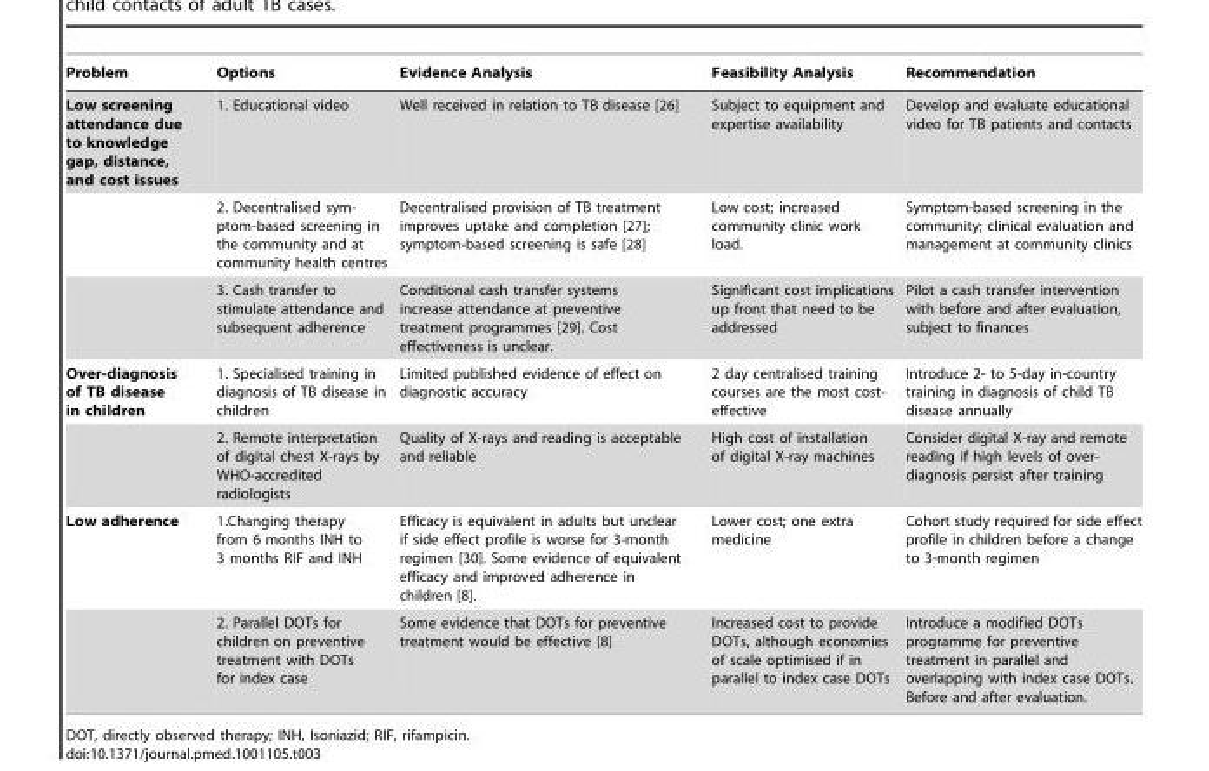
<table><thead><tr><td>Problem</td><td>Options</td><td>Evidence Analysis</td><td>Feasibility Analysis</td><td>Recommendation</td></tr></thead><tbody><tr><td rowspan="3">Low screening attendance due to knowledge gap, distance, and cost issues</td><td>1. Educational video</td><td>Well received in relation to TB disease [26]</td><td>Subject to equipment and expertise availability</td><td>Develop and evaluate educational video for TB patients and contacts</td></tr><tr><td>2. Decentralised sym- ptom-based screening in the community and at community health centres</td><td>Decentralised provision of TB treatment improves uptake and completion [27]; symptom-based screening is safe [28]</td><td>Low cost; increased community clinic work load.</td><td>Symptom-based screening in the community; clinical evaluation and management at community clinics</td></tr><tr><td>3. Cash transfer to stimulate attendance and subsequent adherence</td><td>Conditional cash transfer systems increase attendance at preventive treatment programmes [29]. Cost effectiveness is unclear.</td><td>Significant cost implications up front that need to be addressed</td><td>Pilot a cash transfer intervention with before and after evaluation, subject to finances</td></tr><tr><td rowspan="2">Over-diagnosis of TB disease in children</td><td>1. Specialised training in diagnosis of TB disease in children</td><td>Limited published evidence of effect on diagnostic accuracy</td><td>2 day centralised training courses are the most cost- effective</td><td>Introduce 2- to 5-day in-country training in diagnosis of child TB disease annually</td></tr><tr><td>2. Remote interpretation of digital chest X-rays by WHO-accredited radiologists</td><td>Quality of X-rays and reading is acceptable and reliable</td><td>High cost of installation of digital X-ray machines</td><td>Consider digital X-ray and remote reading if high levels of over- diagnosis persist after training</td></tr><tr><td rowspan="2">Low adherence</td><td>1.Changing therapy from 6 months INH to 3 months RIF and INH</td><td>Efficacy is equivalent in adults but unclear if side effect profile is worse for 3-month regimen [30]. Some evidence of equivalent efficacy and improved adherence in children [8].</td><td>Lower cost; one extra medicine</td><td>Cohort study required for side effect profile in children before a change to 3-month regimen</td></tr><tr><td>2. Parallel DOTs for children on preventive treatment with DOTs for index case</td><td>Some evidence that DOTs for preventive treatment would be effective [8]</td><td>Increased cost to provide DOTs, although economies of scale optimised if in parallel to index case DOTs</td><td>Introduce a modified DOTs programme for preventive treatment in parallel and overlapping with index case DOTs. Before and after evaluation.</td></tr></tbody></table>